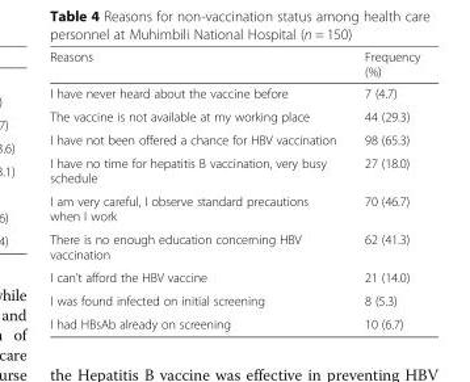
<table><thead><tr><td>Reasons</td><td>Frequency (%)</td></tr></thead><tbody><tr><td>I have never heard about the vaccine before</td><td>7 (4.7)</td></tr><tr><td>The vaccine is not available at my working place</td><td>44 (29.3)</td></tr><tr><td>I have not been offered a chance for HBV vaccination</td><td>98 (65.3)</td></tr><tr><td>I have no time for hepatitis B vaccination, very busy schedule</td><td>27 (18.0)</td></tr><tr><td>I am very careful, I observe standard precautions when I work</td><td>70 (46.7)</td></tr><tr><td>There is no enough education concerning HBV vaccination</td><td>62 (41.3)</td></tr><tr><td>I can’t afford the HBV vaccine</td><td>21 (14.0)</td></tr><tr><td>I was found infected on initial screening</td><td>8 (5.3)</td></tr><tr><td>I had HBsAb already on screening</td><td>10 (6.7)</td></tr></tbody></table>